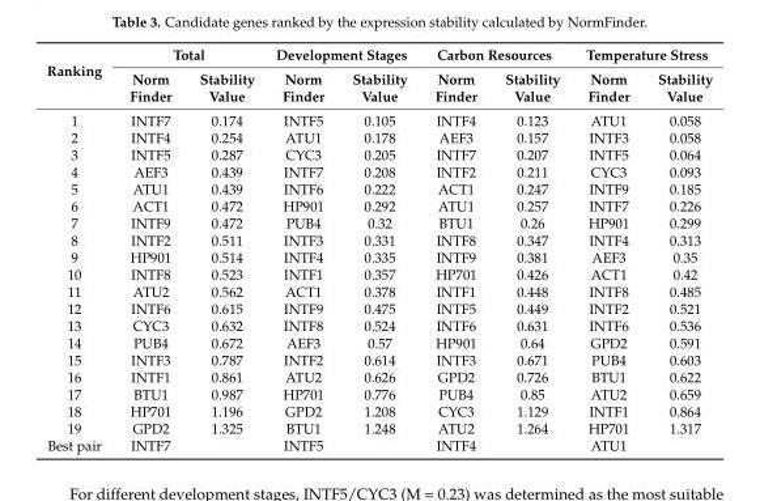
<table><thead><tr><td rowspan="2">Ranking</td><td colspan="2">Total</td><td colspan="2">Development Stages</td><td colspan="2">Carbon Resources</td><td colspan="2">Temperature Stress</td></tr><tr><td>Norm Finder</td><td>Stability Value</td><td>Norm Finder</td><td>Stability Value</td><td>Norm Finder</td><td>Stability Value</td><td>Norm Finder</td><td>Stability Value</td></tr></thead><tbody><tr><td>1</td><td>INTF7</td><td>0.174</td><td>INTF5</td><td>0.105</td><td>INTF4</td><td>0.123</td><td>ATU1</td><td>0.058</td></tr><tr><td>2</td><td>INTF4</td><td>0.254</td><td>ATU1</td><td>0.178</td><td>AEF3</td><td>0.157</td><td>INTF3</td><td>0.058</td></tr><tr><td>3</td><td>INTF5</td><td>0.287</td><td>CYC3</td><td>0.205</td><td>INTF7</td><td>0.207</td><td>INTF5</td><td>0.064</td></tr><tr><td>4</td><td>AEF3</td><td>0.439</td><td>INTF7</td><td>0.208</td><td>INTF2</td><td>0.211</td><td>CYC3</td><td>0.093</td></tr><tr><td>5</td><td>ATU1</td><td>0.439</td><td>INTF6</td><td>0.222</td><td>ACT1</td><td>0.247</td><td>INTF9</td><td>0.185</td></tr><tr><td>6</td><td>ACT1</td><td>0.472</td><td>HP901</td><td>0.292</td><td>ATU1</td><td>0.257</td><td>INTF7</td><td>0.226</td></tr><tr><td>7</td><td>INTF9</td><td>0.472</td><td>PUB4</td><td>0.32</td><td>BTU1</td><td>0.26</td><td>HP901</td><td>0.299</td></tr><tr><td>8</td><td>INTF2</td><td>0.511</td><td>INTF3</td><td>0.331</td><td>INTF8</td><td>0.347</td><td>INTF4</td><td>0.313</td></tr><tr><td>9</td><td>HP901</td><td>0.514</td><td>INTF4</td><td>0.335</td><td>INTF9</td><td>0.381</td><td>AEF3</td><td>0.35</td></tr><tr><td>10</td><td>INTF8</td><td>0.523</td><td>INTF1</td><td>0.357</td><td>HP701</td><td>0.426</td><td>ACT1</td><td>0.42</td></tr><tr><td>11</td><td>ATU2</td><td>0.562</td><td>ACT1</td><td>0.378</td><td>INTF1</td><td>0.448</td><td>INTF8</td><td>0.485</td></tr><tr><td>12</td><td>INTF6</td><td>0.615</td><td>INTF9</td><td>0.475</td><td>INTF5</td><td>0.449</td><td>INTF2</td><td>0.521</td></tr><tr><td>13</td><td>CYC3</td><td>0.632</td><td>INTF8</td><td>0.524</td><td>INTF6</td><td>0.631</td><td>INTF6</td><td>0.536</td></tr><tr><td>14</td><td>PUB4</td><td>0.672</td><td>AEF3</td><td>0.57</td><td>HP901</td><td>0.64</td><td>GPD2</td><td>0.591</td></tr><tr><td>15</td><td>INTF3</td><td>0.787</td><td>INTF2</td><td>0.614</td><td>INTF3</td><td>0.671</td><td>PUB4</td><td>0.603</td></tr><tr><td>16</td><td>INTF1</td><td>0.861</td><td>ATU2</td><td>0.626</td><td>GPD2</td><td>0.726</td><td>BTU1</td><td>0.622</td></tr><tr><td>17</td><td>BTU1</td><td>0.987</td><td>HP701</td><td>0.776</td><td>PUB4</td><td>0.85</td><td>ATU2</td><td>0.659</td></tr><tr><td>18</td><td>HP701</td><td>1.196</td><td>GPD2</td><td>1.208</td><td>CYC3</td><td>1.129</td><td>INTF1</td><td>0.864</td></tr><tr><td>19</td><td>GPD2</td><td>1.325</td><td>BTU1</td><td>1.248</td><td>ATU2</td><td>1.264</td><td>HP701</td><td>1.317</td></tr><tr><td>Best pair</td><td>INTF7</td><td></td><td>INTF5</td><td></td><td>INTF4</td><td></td><td>ATU1</td><td></td></tr></tbody></table>